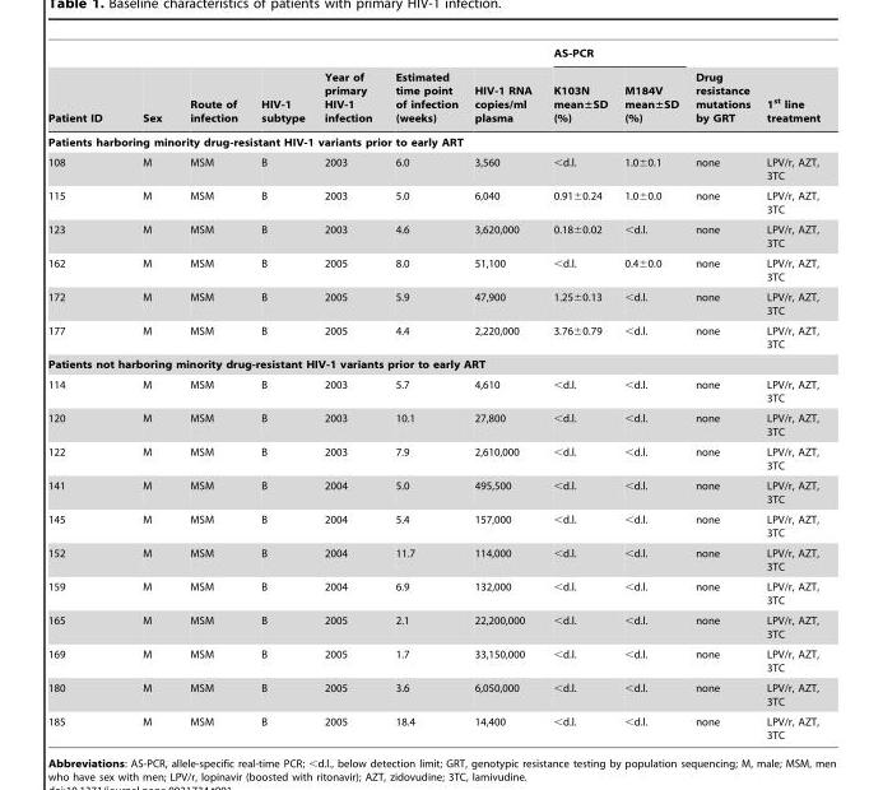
<table><thead><tr><td rowspan="2">Patient ID</td><td rowspan="2">Sex</td><td rowspan="2">Route of infection</td><td rowspan="2">HIV-1 subtype</td><td rowspan="2">Year of primary HIV-1 infection</td><td rowspan="2">Estimated time point of infection (weeks)</td><td rowspan="2">HIV-1 RNA copies/ml plasma</td><td colspan="2">AS-PCR</td><td rowspan="2">Drug resistance mutations by GRT</td><td rowspan="2">1<sup>st</sup> line treatment</td></tr><tr><td>K103N mean±SD (%)</td><td>M184V mean±SD (%)</td></tr></thead><tbody><tr><td colspan="11">Patients harboring minority drug-resistant HIV-1 variants prior to early ART</td></tr><tr><td>108</td><td>M</td><td>MSM</td><td>B</td><td>2003</td><td>6.0</td><td>3,560</td><td>&lt;d.l.</td><td>1.0±0.1</td><td>none</td><td>LPV/r, AZT, 3TC</td></tr><tr><td>115</td><td>M</td><td>MSM</td><td>B</td><td>2003</td><td>5.0</td><td>6,040</td><td>0.91±0.24</td><td>1.0±0.0</td><td>none</td><td>LPV/r, AZT, 3TC</td></tr><tr><td>123</td><td>M</td><td>MSM</td><td>B</td><td>2003</td><td>4.6</td><td>3,620,000</td><td>0.18±0.02</td><td>&lt;d.l.</td><td>none</td><td>LPV/r, AZT, 3TC</td></tr><tr><td>162</td><td>M</td><td>MSM</td><td>B</td><td>2005</td><td>8.0</td><td>51,100</td><td>&lt;d.l.</td><td>0.4±0.0</td><td>none</td><td>LPV/r, AZT, 3TC</td></tr><tr><td>172</td><td>M</td><td>MSM</td><td>B</td><td>2005</td><td>5.9</td><td>47,900</td><td>1.25±0.13</td><td>&lt;d.l.</td><td>none</td><td>LPV/r, AZT, 3TC</td></tr><tr><td>177</td><td>M</td><td>MSM</td><td>B</td><td>2005</td><td>4.4</td><td>2,220,000</td><td>3.76±0.79</td><td>&lt;d.l.</td><td>none</td><td>LPV/r, AZT, 3TC</td></tr><tr><td colspan="11">Patients not harboring minority drug-resistant HIV-1 variants prior to early ART</td></tr><tr><td>114</td><td>M</td><td>MSM</td><td>B</td><td>2003</td><td>5.7</td><td>4,610</td><td>&lt;d.l.</td><td>&lt;d.l.</td><td>none</td><td>LPV/r, AZT, 3TC</td></tr><tr><td>120</td><td>M</td><td>MSM</td><td>B</td><td>2003</td><td>10.1</td><td>27,800</td><td>&lt;d.l.</td><td>&lt;d.l.</td><td>none</td><td>LPV/r, AZT, 3TC</td></tr><tr><td>122</td><td>M</td><td>MSM</td><td>B</td><td>2003</td><td>7.9</td><td>2,610,000</td><td>&lt;d.l.</td><td>&lt;d.l.</td><td>none</td><td>LPV/r, AZT, 3TC</td></tr><tr><td>141</td><td>M</td><td>MSM</td><td>B</td><td>2004</td><td>5.0</td><td>495,500</td><td>&lt;d.l.</td><td>&lt;d.l.</td><td>none</td><td>LPV/r, AZT, 3TC</td></tr><tr><td>145</td><td>M</td><td>MSM</td><td>B</td><td>2004</td><td>5.4</td><td>157,000</td><td>&lt;d.l.</td><td>&lt;d.l.</td><td>none</td><td>LPV/r, AZT, 3TC</td></tr><tr><td>152</td><td>M</td><td>MSM</td><td>B</td><td>2004</td><td>11.7</td><td>114,000</td><td>&lt;d.l.</td><td>&lt;d.l.</td><td>none</td><td>LPV/r, AZT, 3TC</td></tr><tr><td>159</td><td>M</td><td>MSM</td><td>B</td><td>2004</td><td>6.9</td><td>132,000</td><td>&lt;d.l.</td><td>&lt;d.l.</td><td>none</td><td>LPV/r, AZT, 3TC</td></tr><tr><td>165</td><td>M</td><td>MSM</td><td>B</td><td>2005</td><td>2.1</td><td>22,200,000</td><td>&lt;d.l.</td><td>&lt;d.l.</td><td>none</td><td>LPV/r, AZT, 3TC</td></tr><tr><td>169</td><td>M</td><td>MSM</td><td>B</td><td>2005</td><td>1.7</td><td>33,150,000</td><td>&lt;d.l.</td><td>&lt;d.l.</td><td>none</td><td>LPV/r, AZT, 3TC</td></tr><tr><td>180</td><td>M</td><td>MSM</td><td>B</td><td>2005</td><td>3.6</td><td>6,050,000</td><td>&lt;d.l.</td><td>&lt;d.l.</td><td>none</td><td>LPV/r, AZT, 3TC</td></tr><tr><td>185</td><td>M</td><td>MSM</td><td>B</td><td>2005</td><td>18.4</td><td>14,400</td><td>&lt;d.l.</td><td>&lt;d.l.</td><td>none</td><td>LPV/r, AZT, 3TC</td></tr></tbody></table>